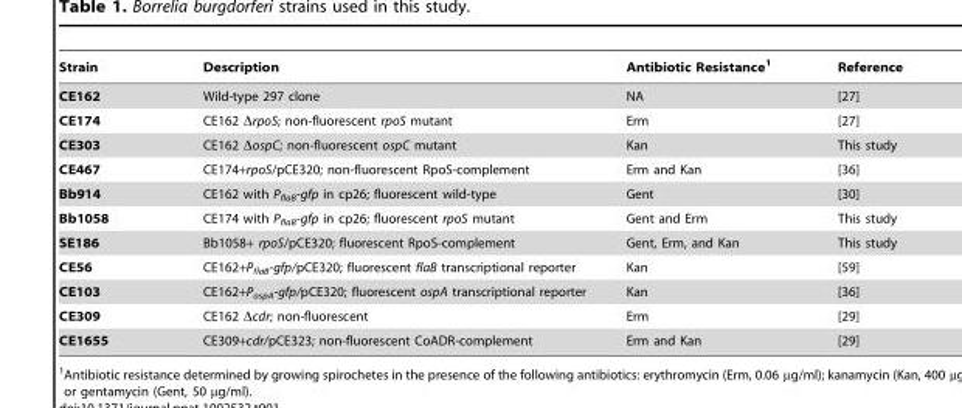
<table><thead><tr><td>Strain</td><td>Description</td><td>Antibiotic Resistance<sup>1</sup></td><td>Reference</td></tr></thead><tbody><tr><td>CE162</td><td>Wild-type 297 clone</td><td>NA</td><td>[27]</td></tr><tr><td>CE174</td><td>CE162 ΔrpoS; non-fluorescent rpoS mutant</td><td>Erm</td><td>[27]</td></tr><tr><td>CE303</td><td>CE162 ΔospC; non-fluorescent ospC mutant</td><td>Kan</td><td>This study</td></tr><tr><td>CE467</td><td>CE174+rpoS/pCE320; non-fluorescent RpoS-complement</td><td>Erm and Kan</td><td>[36]</td></tr><tr><td>Bb914</td><td>CE162 with P<sub>flaB</sub>-gfp in cp26; fluorescent wild-type</td><td>Gent</td><td>[30]</td></tr><tr><td>Bb1058</td><td>CE174 with P<sub>flaB</sub>-gfp in cp26; fluorescent rpoS mutant</td><td>Gent and Erm</td><td>This study</td></tr><tr><td>SE186</td><td>Bb1058+ rpoS/pCE320; fluorescent RpoS-complement</td><td>Gent, Erm, and Kan</td><td>This study</td></tr><tr><td>CE56</td><td>CE162+P<sub>flaB</sub>-gfp/pCE320; fluorescent flaB transcriptional reporter</td><td>Kan</td><td>[59]</td></tr><tr><td>CE103</td><td>CE162+P<sub>ospA</sub>-gfp/pCE320; fluorescent ospA transcriptional reporter</td><td>Kan</td><td>[36]</td></tr><tr><td>CE309</td><td>CE162 Δcdr; non-fluorescent</td><td>Erm</td><td>[29]</td></tr><tr><td>CE1655</td><td>CE309+cdr/pCE323; non-fluorescent CoADR-complement</td><td>Erm and Kan</td><td>[29]</td></tr></tbody></table>